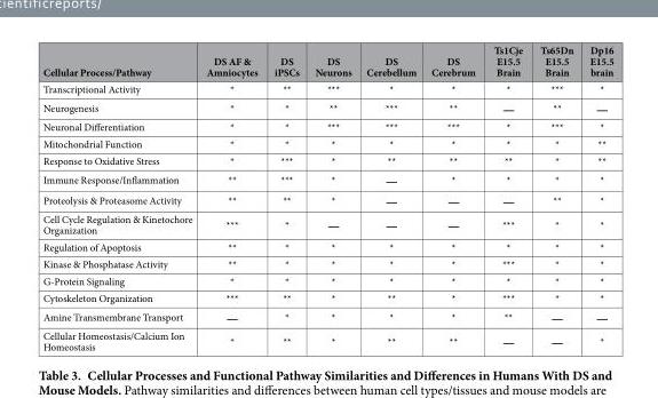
<table><thead><tr><td>Cellular Process/Pathway</td><td>DS AF &amp; Amniocytes</td><td>DS iPSCs</td><td>DS Neurons</td><td>DS Cerebellum</td><td>DS Cerebrum</td><td>Ts1Cje E15.5 Brain</td><td>Ts65Dn E15.5 Brain</td><td>Dp16 E15.5 brain</td></tr></thead><tbody><tr><td>Transcriptional Activity</td><td>*</td><td>**</td><td>***</td><td>*</td><td>*</td><td>*</td><td>***</td><td>*</td></tr><tr><td>Neurogenesis</td><td>*</td><td>*</td><td>**</td><td>***</td><td>**</td><td>—</td><td>**</td><td>—</td></tr><tr><td>Neuronal Differentiation</td><td>*</td><td>*</td><td>***</td><td>***</td><td>***</td><td>*</td><td>***</td><td>*</td></tr><tr><td>Mitochondrial Function</td><td>*</td><td>*</td><td>*</td><td>*</td><td>*</td><td>*</td><td>*</td><td>**</td></tr><tr><td>Response to Oxidative Stress</td><td>*</td><td>***</td><td>*</td><td>**</td><td>**</td><td>**</td><td>*</td><td>**</td></tr><tr><td>Immune Response/Inflammation</td><td>**</td><td>***</td><td>*</td><td>—</td><td>*</td><td>*</td><td>*</td><td>*</td></tr><tr><td>Proteolysis &amp; Proteasome Activity</td><td>**</td><td>**</td><td>*</td><td>—</td><td>—</td><td>—</td><td>**</td><td>*</td></tr><tr><td>Cell Cycle Regulation &amp; Kinetochore Organization</td><td>***</td><td>*</td><td>—</td><td>—</td><td>—</td><td>***</td><td>*</td><td>*</td></tr><tr><td>Regulation of Apoptosis</td><td>**</td><td>*</td><td>*</td><td>*</td><td>*</td><td>*</td><td>*</td><td>*</td></tr><tr><td>Kinase &amp; Phosphatase Activity</td><td>**</td><td>*</td><td>*</td><td>*</td><td>*</td><td>***</td><td>*</td><td>*</td></tr><tr><td>G-Protein Signaling</td><td>*</td><td>*</td><td>*</td><td>*</td><td>*</td><td>*</td><td>*</td><td>*</td></tr><tr><td>Cytoskeleton Organization</td><td>***</td><td>**</td><td>*</td><td>**</td><td>*</td><td>***</td><td>*</td><td>*</td></tr><tr><td>Amine Transmembrane Transport</td><td>—</td><td>*</td><td>*</td><td>*</td><td>*</td><td>**</td><td>—</td><td>—</td></tr><tr><td>Cellular Homeostasis/Calcium Ion Homeostasis</td><td>*</td><td>**</td><td>*</td><td>**</td><td>**</td><td>—</td><td>—</td><td>*</td></tr></tbody></table>